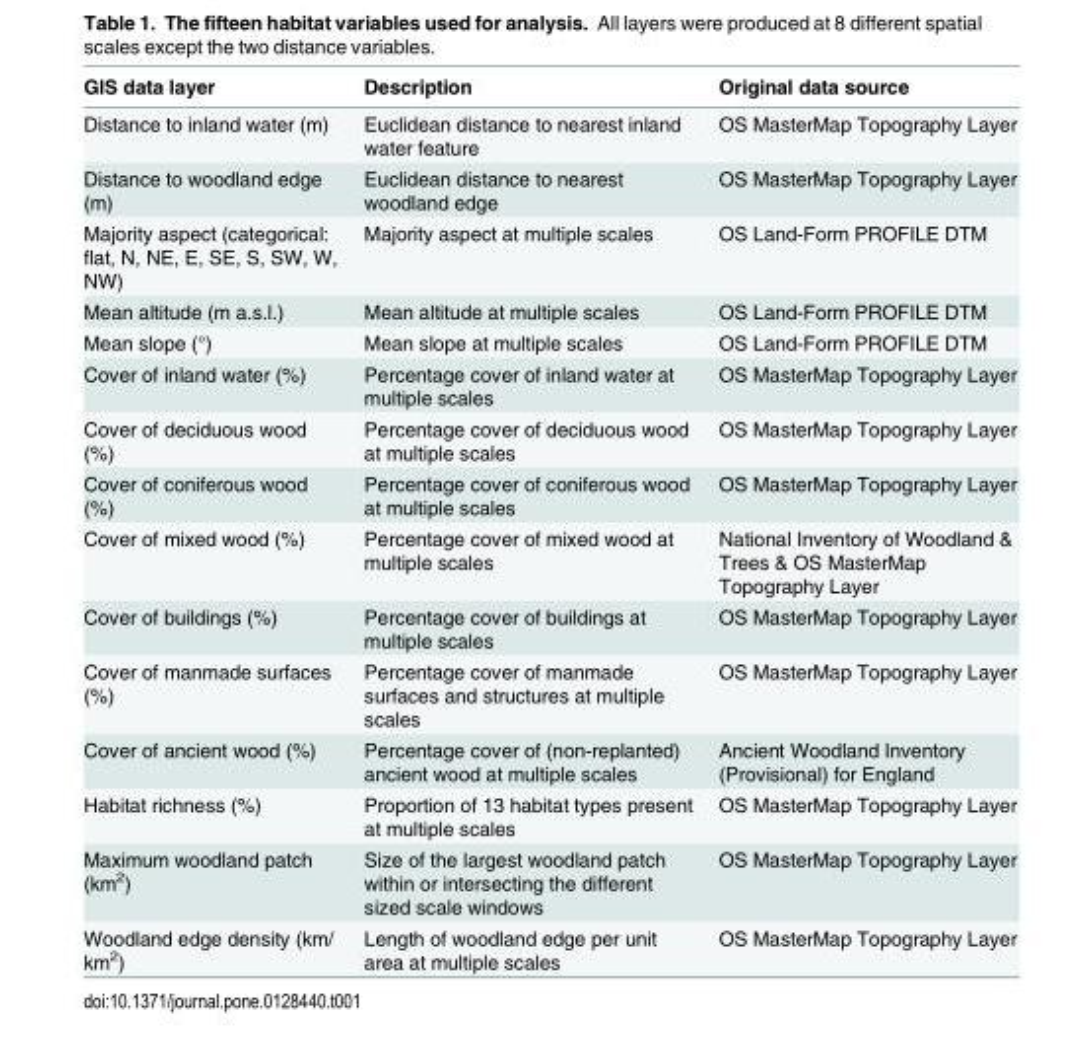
<table><thead><tr><td>GIS data layer</td><td>Description</td><td>Original data source</td></tr></thead><tbody><tr><td>Distance to inland water (m)</td><td>Euclidean distance to nearest inland water feature</td><td>OS MasterMap Topography Layer</td></tr><tr><td>Distance to woodland edge (m)</td><td>Euclidean distance to nearest woodland edge</td><td>OS MasterMap Topography Layer</td></tr><tr><td>Majority aspect (categorical: flat, N, NE, E, SE, S, SW, W, NW)</td><td>Majority aspect at multiple scales</td><td>OS Land-Form PROFILE DTM</td></tr><tr><td>Mean altitude (m a.s.l.)</td><td>Mean altitude at multiple scales</td><td>OS Land-Form PROFILE DTM</td></tr><tr><td>Mean slope (°)</td><td>Mean slope at multiple scales</td><td>OS Land-Form PROFILE DTM</td></tr><tr><td>Cover of inland water (%)</td><td>Percentage cover of inland water at multiple scales</td><td>OS MasterMap Topography Layer</td></tr><tr><td>Cover of deciduous wood (%)</td><td>Percentage cover of deciduous wood at multiple scales</td><td>OS MasterMap Topography Layer</td></tr><tr><td>Cover of coniferous wood (%)</td><td>Percentage cover of coniferous wood at multiple scales</td><td>OS MasterMap Topography Layer</td></tr><tr><td>Cover of mixed wood (%)</td><td>Percentage cover of mixed wood at multiple scales</td><td>National Inventory of Woodland &amp; Trees &amp; OS MasterMap Topography Layer</td></tr><tr><td>Cover of buildings (%)</td><td>Percentage cover of buildings at multiple scales</td><td>OS MasterMap Topography Layer</td></tr><tr><td>Cover of manmade surfaces (%)</td><td>Percentage cover of manmade surfaces and structures at multiple scales</td><td>OS MasterMap Topography Layer</td></tr><tr><td>Cover of ancient wood (%)</td><td>Percentage cover of (non-replanted) ancient wood at multiple scales</td><td>Ancient Woodland Inventory (Provisional) for England</td></tr><tr><td>Habitat richness (%)</td><td>Proportion of 13 habitat types present at multiple scales</td><td>OS MasterMap Topography Layer</td></tr><tr><td>Maximum woodland patch (km<sup>2</sup>)</td><td>Size of the largest woodland patch within or intersecting the different sized scale windows</td><td>OS MasterMap Topography Layer</td></tr><tr><td>Woodland edge density (km/ km<sup>2</sup>)</td><td>Length of woodland edge per unit area at multiple scales</td><td>OS MasterMap Topography Layer</td></tr></tbody></table>